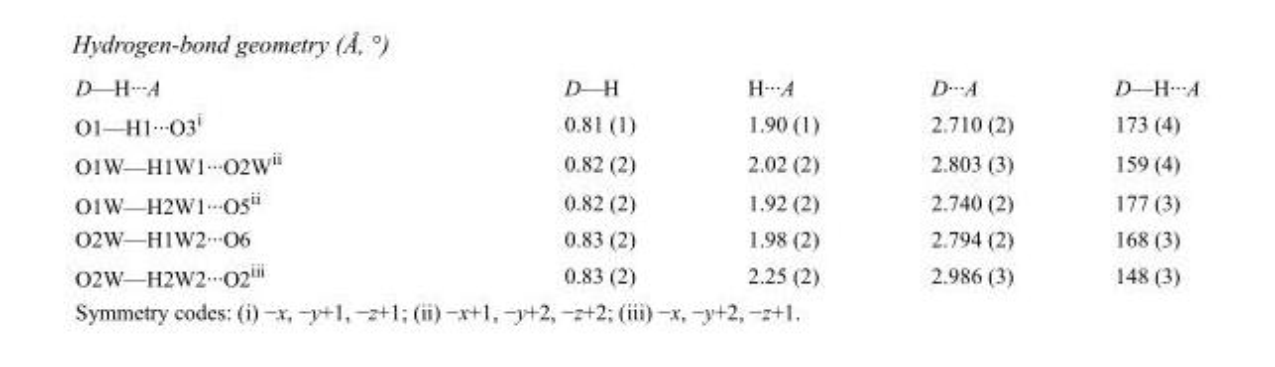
<table><tbody><tr><td>D—H···A</td><td>D—H</td><td>H···A</td><td>D···A</td><td>D—H···A</td></tr><tr><td>O1—H1···O3<sup>i</sup></td><td>0.81 (1)</td><td>1.90 (1)</td><td>2.710 (2)</td><td>173 (4)</td></tr><tr><td>O1W—H1W1···O2W<sup>ii</sup></td><td>0.82 (2)</td><td>2.02 (2)</td><td>2.803 (3)</td><td>159 (4)</td></tr><tr><td>O1W—H2W1···O5<sup>ii</sup></td><td>0.82 (2)</td><td>1.92 (2)</td><td>2.740 (2)</td><td>177 (3)</td></tr><tr><td>O2W—H1W2···O6</td><td>0.83 (2)</td><td>1.98 (2)</td><td>2.794 (2)</td><td>168 (3)</td></tr><tr><td>O2W—H2W2···O2<sup>iii</sup></td><td>0.83 (2)</td><td>2.25 (2)</td><td>2.986 (3)</td><td>148 (3)</td></tr></tbody></table>